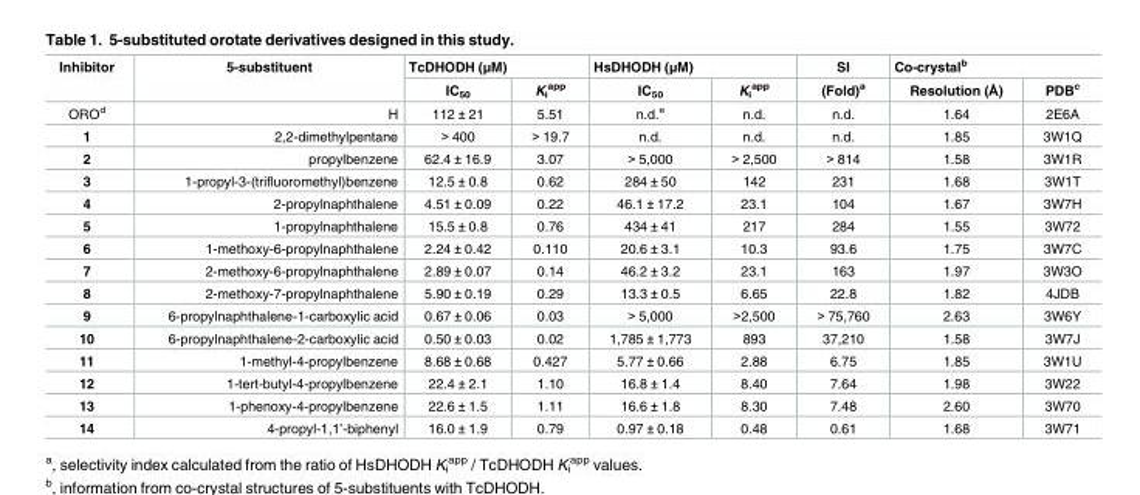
<table><thead><tr><td rowspan="2">Inhibitor</td><td rowspan="2">5-substituent</td><td colspan="2">TcDHODH (μM)</td><td colspan="2">HsDHODH (μM)</td><td rowspan="2">SI (Fold)<sup>a</sup></td><td colspan="2">Co-crystal<sup>b</sup></td></tr><tr><td>IC<sub>50</sub></td><td>K<sub>i</sub> <sup>app</sup></td><td>IC<sub>50</sub></td><td>K<sub>i</sub> <sup>app</sup></td><td>Resolution (Å)</td><td>PDB<sup>c</sup></td></tr></thead><tbody><tr><td>ORO<sup>d</sup></td><td>H</td><td>112 ± 21</td><td>5.51</td><td>n.d.<sup>e</sup></td><td>n.d.</td><td>n.d.</td><td>1.64</td><td>2E6A</td></tr><tr><td>1</td><td>2,2-dimethylpentane</td><td>&gt; 400</td><td>&gt; 19.7</td><td>n.d.</td><td>n.d.</td><td>n.d.</td><td>1.85</td><td>3W1Q</td></tr><tr><td>2</td><td>propylbenzene</td><td>62.4 ± 16.9</td><td>3.07</td><td>&gt; 5,000</td><td>&gt; 2,500</td><td>&gt; 814</td><td>1.58</td><td>3W1R</td></tr><tr><td>3</td><td>1-propyl-3-(trifluoromethyl)benzene</td><td>12.5 ± 0.8</td><td>0.62</td><td>284 ± 50</td><td>142</td><td>231</td><td>1.68</td><td>3W1T</td></tr><tr><td>4</td><td>2-propylnaphthalene</td><td>4.51 ± 0.09</td><td>0.22</td><td>46.1 ± 17.2</td><td>23.1</td><td>104</td><td>1.67</td><td>3W7H</td></tr><tr><td>5</td><td>1-propylnaphthalene</td><td>15.5 ± 0.8</td><td>0.76</td><td>434 ± 41</td><td>217</td><td>284</td><td>1.55</td><td>3W72</td></tr><tr><td>6</td><td>1-methoxy-6-propylnaphthalene</td><td>2.24 ± 0.42</td><td>0.110</td><td>20.6 ± 3.1</td><td>10.3</td><td>93.6</td><td>1.75</td><td>3W7C</td></tr><tr><td>7</td><td>2-methoxy-6-propylnaphthalene</td><td>2.89 ± 0.07</td><td>0.14</td><td>46.2 ± 3.2</td><td>23.1</td><td>163</td><td>1.97</td><td>3W3O</td></tr><tr><td>8</td><td>2-methoxy-7-propylnaphthalene</td><td>5.90 ± 0.19</td><td>0.29</td><td>13.3 ± 0.5</td><td>6.65</td><td>22.8</td><td>1.82</td><td>4JDB</td></tr><tr><td>9</td><td>6-propylnaphthalene-1-carboxylic acid</td><td>0.67 ± 0.06</td><td>0.03</td><td>&gt; 5,000</td><td>&gt;2,500</td><td>&gt; 75,760</td><td>2.63</td><td>3W6Y</td></tr><tr><td>10</td><td>6-propylnaphthalene-2-carboxylic acid</td><td>0.50 ± 0.03</td><td>0.02</td><td>1,785 ± 1,773</td><td>893</td><td>37,210</td><td>1.58</td><td>3W7J</td></tr><tr><td>11</td><td>1-methyl-4-propylbenzene</td><td>8.68 ± 0.68</td><td>0.427</td><td>5.77 ± 0.66</td><td>2.88</td><td>6.75</td><td>1.85</td><td>3W1U</td></tr><tr><td>12</td><td>1-tert-butyl-4-propylbenzene</td><td>22.4 ± 2.1</td><td>1.10</td><td>16.8 ± 1.4</td><td>8.40</td><td>7.64</td><td>1.98</td><td>3W22</td></tr><tr><td>13</td><td>1-phenoxy-4-propylbenzene</td><td>22.6 ± 1.5</td><td>1.11</td><td>16.6 ± 1.8</td><td>8.30</td><td>7.48</td><td>2.60</td><td>3W70</td></tr><tr><td>14</td><td>4-propyl-1,1’-biphenyl</td><td>16.0 ± 1.9</td><td>0.79</td><td>0.97 ± 0.18</td><td>0.48</td><td>0.61</td><td>1.68</td><td>3W71</td></tr></tbody></table>